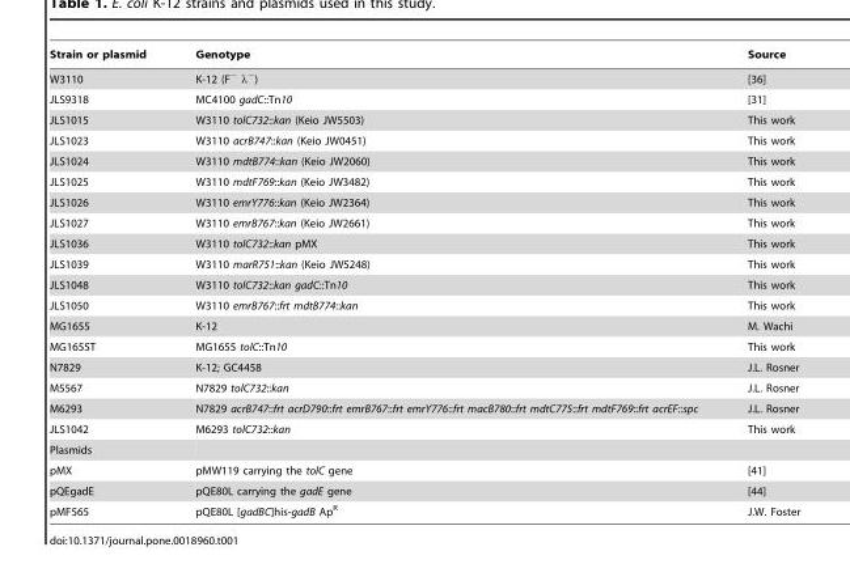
<table><thead><tr><td>Strain or plasmid</td><td>Genotype</td><td>Source</td></tr></thead><tbody><tr><td>W3110</td><td>K-12 (F<sup>−</sup> λ<sup>−</sup>)</td><td>[36]</td></tr><tr><td>JLS9318</td><td>MC4100 gadC::Tn10</td><td>[31]</td></tr><tr><td>JLS1015</td><td>W3110 tolC732::kan (Keio JW5503)</td><td>This work</td></tr><tr><td>JLS1023</td><td>W3110 acrB747::kan (Keio JW0451)</td><td>This work</td></tr><tr><td>JLS1024</td><td>W3110 mdtB774::kan (Keio JW2060)</td><td>This work</td></tr><tr><td>JLS1025</td><td>W3110 mdtF769::kan (Keio JW3482)</td><td>This work</td></tr><tr><td>JLS1026</td><td>W3110 emrY776::kan (Keio JW2364)</td><td>This work</td></tr><tr><td>JLS1027</td><td>W3110 emrB767::kan (Keio JW2661)</td><td>This work</td></tr><tr><td>JLS1036</td><td>W3110 tolC732::kan pMX</td><td>This work</td></tr><tr><td>JLS1039</td><td>W3110 marR751::kan (Keio JW5248)</td><td>This work</td></tr><tr><td>JLS1048</td><td>W3110 tolC732::kan gadC::Tn10</td><td>This work</td></tr><tr><td>JLS1050</td><td>W3110 emrB767::frt mdtB774::kan</td><td>This work</td></tr><tr><td>MG1655</td><td>K-12</td><td>M. Wachi</td></tr><tr><td>MG1655T</td><td>MG1655 tolC::Tn10</td><td>This work</td></tr><tr><td>N7829</td><td>K-12; GC4458</td><td>J.L. Rosner</td></tr><tr><td>M5567</td><td>N7829 tolC732::kan</td><td>J.L. Rosner</td></tr><tr><td>M6293</td><td>N7829 acrB747::frt acrD790::frt emrB767::frt emrY776::frt macB780::frt mdtC775::frt mdtF769::frt acrEF::spc</td><td>J.L. Rosner</td></tr><tr><td>JLS1042</td><td>M6293 tolC732::kan</td><td>This work</td></tr><tr><td colspan="3">Plasmids</td></tr><tr><td>pMX</td><td>pMW119 carrying the tolC gene</td><td>[41]</td></tr><tr><td>pQEgadE</td><td>pQE80L carrying the gadE gene</td><td>[44]</td></tr><tr><td>pMF565</td><td>pQE80L [gadBC]his-gadB Ap<sup>R</sup></td><td>J.W. Foster</td></tr></tbody></table>